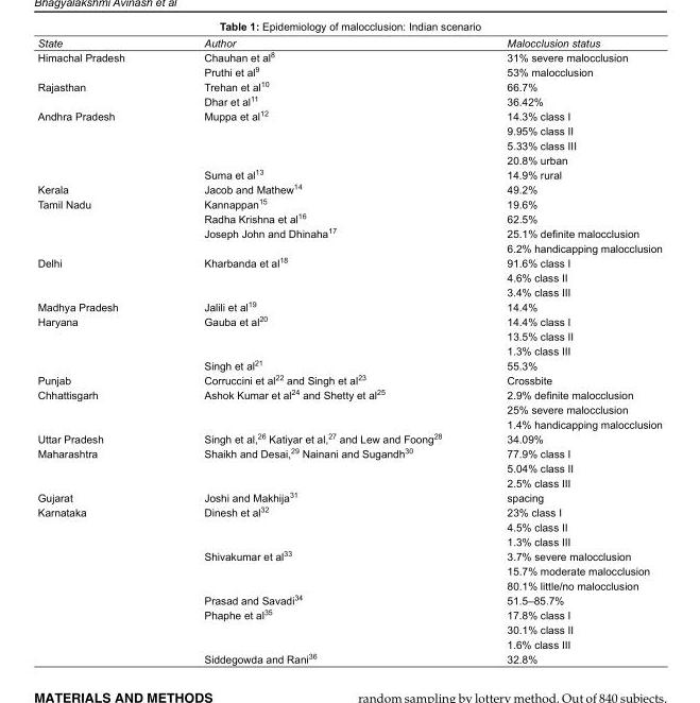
<table><tbody><tr><td>State</td><td>Author</td><td>Malocclusion status</td></tr><tr><td rowspan="2">Himachal Pradesh</td><td>Chauhan et al<sup>8</sup></td><td>31% severe malocclusion</td></tr><tr><td>Pruthi et al<sup>9</sup></td><td>53% malocclusion</td></tr><tr><td rowspan="2">Rajasthan</td><td>Trehan et al<sup>10</sup></td><td>66.7%</td></tr><tr><td>Dhar et al<sup>11</sup></td><td>36.42%</td></tr><tr><td rowspan="5">Andhra Pradesh</td><td>Muppa et al<sup>12</sup></td><td>14.3% class I</td></tr><tr><td></td><td>9.95% class II</td></tr><tr><td></td><td>5.33% class III</td></tr><tr><td></td><td>20.8% urban</td></tr><tr><td>Suma et al<sup>13</sup></td><td>14.9% rural</td></tr><tr><td>Kerala</td><td>Jacob and Mathew<sup>14</sup></td><td>49.2%</td></tr><tr><td rowspan="4">Tamil Nadu</td><td>Kannappan<sup>15</sup></td><td>19.6%</td></tr><tr><td>Radha Krishna et al<sup>16</sup></td><td>62.5%</td></tr><tr><td>Joseph John and Dhinaha<sup>17</sup></td><td>25.1% definite malocclusion</td></tr><tr><td></td><td>6.2% handicapping malocclusion</td></tr><tr><td rowspan="3">Delhi</td><td>Kharbanda et al<sup>18</sup></td><td>91.6% class I</td></tr><tr><td></td><td>4.6% class II</td></tr><tr><td></td><td>3.4% class III</td></tr><tr><td>Madhya Pradesh</td><td>Jalili et al<sup>19</sup></td><td>14.4%</td></tr><tr><td rowspan="4">Haryana</td><td>Gauba et al<sup>20</sup></td><td>14.4% class I</td></tr><tr><td></td><td>13.5% class II</td></tr><tr><td></td><td>1.3% class III</td></tr><tr><td>Singh et al<sup>21</sup></td><td>55.3%</td></tr><tr><td>Punjab</td><td>Corruccini et al<sup>22</sup> and Singh et al<sup>23</sup></td><td>Crossbite</td></tr><tr><td rowspan="3">Chhattisgarh</td><td>Ashok Kumar et al<sup>24</sup> and Shetty et al<sup>25</sup></td><td>2.9% definite malocclusion</td></tr><tr><td></td><td>25% severe malocclusion</td></tr><tr><td></td><td>1.4% handicapping malocclusion</td></tr><tr><td>Uttar Pradesh</td><td>Singh et al,<sup>26</sup> Katiyar et al,<sup>27</sup> and Lew and Foong<sup>28</sup></td><td>34.09%</td></tr><tr><td rowspan="3">Maharashtra</td><td>Shaikh and Desai,<sup>29</sup> Nainani and Sugandh<sup>30</sup></td><td>77.9% class I</td></tr><tr><td></td><td>5.04% class II</td></tr><tr><td></td><td>2.5% class III</td></tr><tr><td>Gujarat</td><td>Joshi and Makhija<sup>31</sup></td><td>spacing</td></tr><tr><td rowspan="11">Karnataka</td><td>Dinesh et al<sup>32</sup></td><td>23% class I</td></tr><tr><td></td><td>4.5% class II</td></tr><tr><td></td><td>1.3% class III</td></tr><tr><td>Shivakumar et al<sup>33</sup></td><td>3.7% severe malocclusion</td></tr><tr><td></td><td>15.7% moderate malocclusion</td></tr><tr><td></td><td>80.1% little/no malocclusion</td></tr><tr><td>Prasad and Savadi<sup>34</sup></td><td>51.5–85.7%</td></tr><tr><td>Phaphe et al<sup>35</sup></td><td>17.8% class I</td></tr><tr><td></td><td>30.1% class II</td></tr><tr><td></td><td>1.6% class III</td></tr><tr><td>Siddegowda and Rani<sup>36</sup></td><td>32.8%</td></tr></tbody></table>